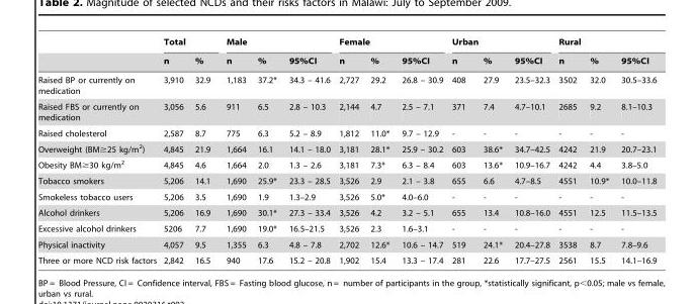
<table><thead><tr><td rowspan="2"></td><td colspan="2">Total</td><td colspan="3">Male</td><td colspan="3">Female</td><td colspan="3">Urban</td><td colspan="3">Rural</td></tr><tr><td>n</td><td>%</td><td>n</td><td>%</td><td>95%CI</td><td>n</td><td>%</td><td>95%CI</td><td>n</td><td>%</td><td>95%CI</td><td>n</td><td>%</td><td>95%CI</td></tr></thead><tbody><tr><td>Raised BP or currently on medication</td><td>3,910</td><td>32.9</td><td>1,183</td><td>37.2*</td><td>34.3 – 41.6</td><td>2,727</td><td>29.2</td><td>26.8 – 30.9</td><td>408</td><td>27.9</td><td>23.5–32.3</td><td>3502</td><td>32.0</td><td>30.5–33.6</td></tr><tr><td>Raised FBS or currently on medication</td><td>3,056</td><td>5.6</td><td>911</td><td>6.5</td><td>2.8 – 10.3</td><td>2,144</td><td>4.7</td><td>2.5 – 7.1</td><td>371</td><td>7.4</td><td>4.7–10.1</td><td>2685</td><td>9.2</td><td>8.1–10.3</td></tr><tr><td>Raised cholesterol</td><td>2,587</td><td>8.7</td><td>775</td><td>6.3</td><td>5.2 – 8.9</td><td>1,812</td><td>11.0*</td><td>9.7 – 12.9</td><td>-</td><td>-</td><td>-</td><td>-</td><td>-</td><td>-</td></tr><tr><td>Overweight (BM≥25 kg/m<sup>2</sup>)</td><td>4,845</td><td>21.9</td><td>1,664</td><td>16.1</td><td>14.1 – 18.0</td><td>3,181</td><td>28.1*</td><td>25.9 – 30.2</td><td>603</td><td>38.6*</td><td>34.7–42.5</td><td>4242</td><td>21.9</td><td>20.7–23.1</td></tr><tr><td>Obesity BM≥30 kg/m<sup>2</sup></td><td>4,845</td><td>4.6</td><td>1,664</td><td>2.0</td><td>1.3 – 2.6</td><td>3,181</td><td>7.3*</td><td>6.3 – 8.4</td><td>603</td><td>13.6*</td><td>10.9–16.7</td><td>4242</td><td>4.4</td><td>3.8–5.0</td></tr><tr><td>Tobacco smokers</td><td>5,206</td><td>14.1</td><td>1,690</td><td>25.9*</td><td>23.3 – 28.5</td><td>3,526</td><td>2.9</td><td>2.1 – 3.8</td><td>655</td><td>6.6</td><td>4.7–8.5</td><td>4551</td><td>10.9*</td><td>10.0–11.8</td></tr><tr><td>Smokeless tobacco users</td><td>5,206</td><td>3.5</td><td>1,690</td><td>1.9</td><td>1.3–2.9</td><td>3,526</td><td>5.0*</td><td>4.0–6.0</td><td>-</td><td>-</td><td>-</td><td>-</td><td>-</td><td>-</td></tr><tr><td>Alcohol drinkers</td><td>5,206</td><td>16.9</td><td>1,690</td><td>30.1*</td><td>27.3 – 33.4</td><td>3,526</td><td>4.2</td><td>3.2 – 5.1</td><td>655</td><td>13.4</td><td>10.8–16.0</td><td>4551</td><td>12.5</td><td>11.5–13.5</td></tr><tr><td>Excessive alcohol drinkers</td><td>5206</td><td>7.7</td><td>1,690</td><td>19.0*</td><td>16.5–21.5</td><td>3,526</td><td>2.3</td><td>1.6–3.1</td><td>-</td><td>-</td><td>-</td><td>-</td><td>-</td><td>-</td></tr><tr><td>Physical inactivity</td><td>4,057</td><td>9.5</td><td>1,355</td><td>6.3</td><td>4.8 – 7.8</td><td>2,702</td><td>12.6*</td><td>10.6 – 14.7</td><td>519</td><td>24.1*</td><td>20.4–27.8</td><td>3538</td><td>8.7</td><td>7.8–9.6</td></tr><tr><td>Three or more NCD risk factors</td><td>2,842</td><td>16.5</td><td>940</td><td>17.6</td><td>15.2 – 20.8</td><td>1,902</td><td>15.4</td><td>13.3 – 17.4</td><td>281</td><td>22.6</td><td>17.7–27.5</td><td>2561</td><td>15.5</td><td>14.1–16.9</td></tr></tbody></table>